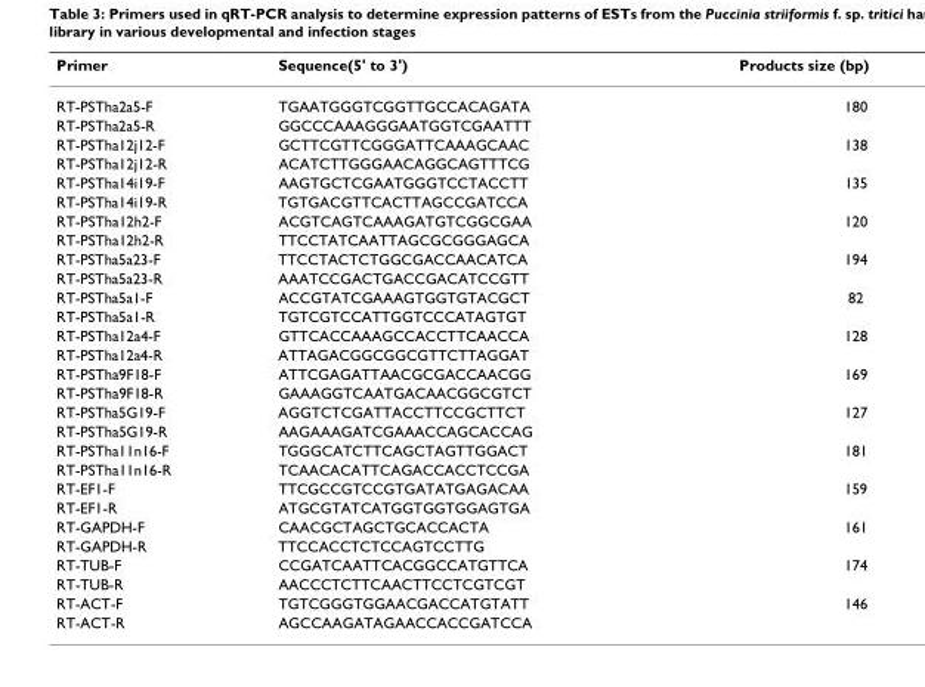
<table><thead><tr><td>Primer</td><td>Sequence(5&#x27; to 3&#x27;)</td><td>Products size (bp)</td></tr></thead><tbody><tr><td>RT-PSTha2a5-F</td><td>TGAATGGGTCGGTTGCCACAGATA</td><td>180</td></tr><tr><td>RT-PSTha2a5-R</td><td>GGCCCAAAGGGAATGGTCGAATTT</td><td></td></tr><tr><td>RT-PSTha12j12-F</td><td>GCTTCGTTCGGGATTCAAAGCAAC</td><td>138</td></tr><tr><td>RT-PSTha12j12-R</td><td>ACATCTTGGGAACAGGCAGTTTCG</td><td></td></tr><tr><td>RT-PSTha14i19-F</td><td>AAGTGCTCGAATGGGTCCTACCTT</td><td>135</td></tr><tr><td>RT-PSTha14i19-R</td><td>TGTGACGTTCACTTAGCCGATCCA</td><td></td></tr><tr><td>RT-PSTha12h2-F</td><td>ACGTCAGTCAAAGATGTCGGCGAA</td><td>120</td></tr><tr><td>RT-PSTha12h2-R</td><td>TTCCTATCAATTAGCGCGGGAGCA</td><td></td></tr><tr><td>RT-PSTha5a23-F</td><td>TTCCTACTCTGGCGACCAACATCA</td><td>194</td></tr><tr><td>RT-PSTha5a23-R</td><td>AAATCCGACTGACCGACATCCGTT</td><td></td></tr><tr><td>RT-PSTha5a1-F</td><td>ACCGTATCGAAAGTGGTGTACGCT</td><td>82</td></tr><tr><td>RT-PSTha5a1-R</td><td>TGTCGTCCATTGGTCCCATAGTGT</td><td></td></tr><tr><td>RT-PSTha12a4-F</td><td>GTTCACCAAAGCCACCTTCAACCA</td><td>128</td></tr><tr><td>RT-PSTha12a4-R</td><td>ATTAGACGGCGGCGTTCTTAGGAT</td><td></td></tr><tr><td>RT-PSTha9F18-F</td><td>ATTCGAGATTAACGCGACCAACGG</td><td>169</td></tr><tr><td>RT-PSTha9F18-R</td><td>GAAAGGTCAATGACAACGGCGTCT</td><td></td></tr><tr><td>RT-PSTha5G19-F</td><td>AGGTCTCGATTACCTTCCGCTTCT</td><td>127</td></tr><tr><td>RT-PSTha5G19-R</td><td>AAGAAAGATCGAAACCAGCACCAG</td><td></td></tr><tr><td>RT-PSTha11n16-F</td><td>TGGGCATCTTCAGCTAGTTGGACT</td><td>181</td></tr><tr><td>RT-PSTha11n16-R</td><td>TCAACACATTCAGACCACCTCCGA</td><td></td></tr><tr><td>RT-EF1-F</td><td>TTCGCCGTCCGTGATATGAGACAA</td><td>159</td></tr><tr><td>RT-EF1-R</td><td>ATGCGTATCATGGTGGTGGAGTGA</td><td></td></tr><tr><td>RT-GAPDH-F</td><td>CAACGCTAGCTGCACCACTA</td><td>161</td></tr><tr><td>RT-GAPDH-R</td><td>TTCCACCTCTCCAGTCCTTG</td><td></td></tr><tr><td>RT-TUB-F</td><td>CCGATCAATTCACGGCCATGTTCA</td><td>174</td></tr><tr><td>RT-TUB-R</td><td>AACCCTCTTCAACTTCCTCGTCGT</td><td></td></tr><tr><td>RT-ACT-F</td><td>TGTCGGGTGGAACGACCATGTATT</td><td>146</td></tr><tr><td>RT-ACT-R</td><td>AGCCAAGATAGAACCACCGATCCA</td><td></td></tr></tbody></table>